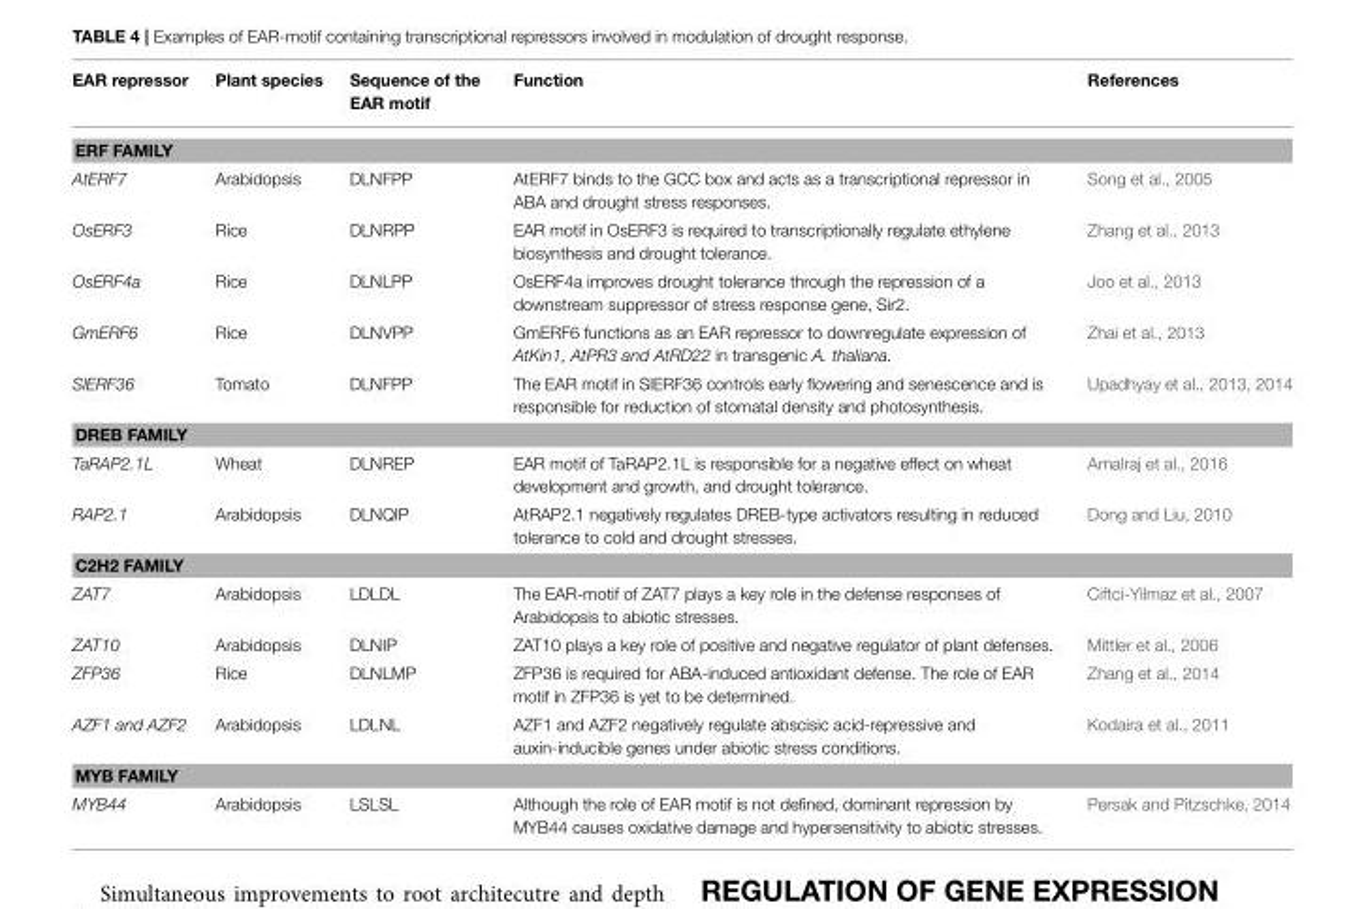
<table><thead><tr><td>EAR repressor</td><td>Plant species</td><td>Sequence of the EAR motif</td><td>Function</td><td>References</td></tr></thead><tbody><tr><td colspan="5">ERF FAMILY</td></tr><tr><td>AtERF7</td><td>Arabidopsis</td><td>DLNFPP</td><td>AtERF7 binds to the GCC box and acts as a transcriptional repressor in ABA and drought stress responses.</td><td>Song et al., 2005</td></tr><tr><td>OsERF3</td><td>Rice</td><td>DLNRPP</td><td>EAR motif in OsERF3 is required to transcriptionally regulate ethylene biosynthesis and drought tolerance.</td><td>Zhang et al., 2013</td></tr><tr><td>OsERF4a</td><td>Rice</td><td>DLNLPP</td><td>OsERF4a improves drought tolerance through the repression of a downstream suppressor of stress response gene, Sir2.</td><td>Joo et al., 2013</td></tr><tr><td>GmERF6</td><td>Rice</td><td>DLNVPP</td><td>GmERF6 functions as an EAR repressor to downregulate expression of AtKin1, AtPR3 and AtRD22 in transgenic A. thaliana.</td><td>Zhai et al., 2013</td></tr><tr><td>SlERF36</td><td>Tomato</td><td>DLNFPP</td><td>The EAR motif in SlERF36 controls early flowering and senescence and is responsible for reduction of stomatal density and photosynthesis.</td><td>Upadhyay et al., 2013, 2014</td></tr><tr><td colspan="5">DREB FAMILY</td></tr><tr><td>TaRAP2.1L</td><td>Wheat</td><td>DLNREP</td><td>EAR motif of TaRAP2.1L is responsible for a negative effect on wheat development and growth, and drought tolerance.</td><td>Amalraj et al., 2016</td></tr><tr><td>RAP2.1</td><td>Arabidopsis</td><td>DLNQIP</td><td>AtRAP2.1 negatively regulates DREB-type activators resulting in reduced tolerance to cold and drought stresses.</td><td>Dong and Liu, 2010</td></tr><tr><td colspan="5">C2H2 FAMILY</td></tr><tr><td>ZAT7</td><td>Arabidopsis</td><td>LDLDL</td><td>The EAR-motif of ZAT7 plays a key role in the defense responses of Arabidopsis to abiotic stresses.</td><td>Ciftci-Yilmaz et al., 2007</td></tr><tr><td>ZAT10</td><td>Arabidopsis</td><td>DLNIP</td><td>ZAT10 plays a key role of positive and negative regulator of plant defenses.</td><td>Mittler et al., 2006</td></tr><tr><td>ZFP36</td><td>Rice</td><td>DLNLMP</td><td>ZFP36 is required for ABA-induced antioxidant defense. The role of EAR motif in ZFP36 is yet to be determined.</td><td>Zhang et al., 2014</td></tr><tr><td>AZF1 and AZF2</td><td>Arabidopsis</td><td>LDLNL</td><td>AZF1 and AZF2 negatively regulate abscisic acid-repressive and auxin-inducible genes under abiotic stress conditions.</td><td>Kodaira et al., 2011</td></tr><tr><td colspan="5">MYB FAMILY</td></tr><tr><td>MYB44</td><td>Arabidopsis</td><td>LSLSL</td><td>Although the role of EAR motif is not defined, dominant repression by MYB44 causes oxidative damage and hypersensitivity to abiotic stresses.</td><td>Persak and Pitzschke, 2014</td></tr></tbody></table>